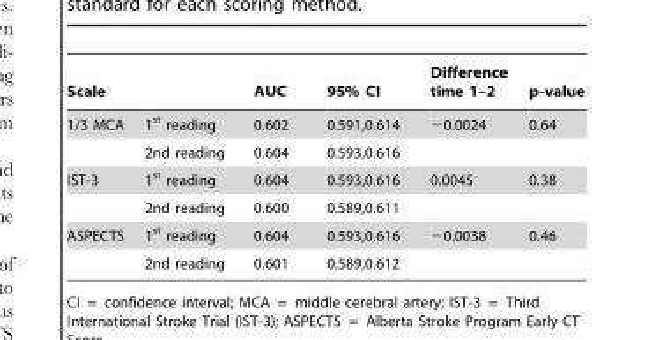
<table><thead><tr><td>Scale</td><td></td><td>AUC</td><td>95% CI</td><td>Difference time 1–2</td><td>p-value</td></tr></thead><tbody><tr><td rowspan="2">1/3 MCA</td><td>1<sup>st</sup> reading</td><td>0.602</td><td>0.591,0.614</td><td>−0.0024</td><td>0.64</td></tr><tr><td>2nd reading</td><td>0.604</td><td>0.593,0.616</td><td></td><td></td></tr><tr><td rowspan="2">IST-3</td><td>1<sup>st</sup> reading</td><td>0.604</td><td>0.593,0.616</td><td>0.0045</td><td>0.38</td></tr><tr><td>2nd reading</td><td>0.600</td><td>0.589,0.611</td><td></td><td></td></tr><tr><td rowspan="2">ASPECTS</td><td>1<sup>st</sup> reading</td><td>0.604</td><td>0.593,0.616</td><td>−0.0038</td><td>0.46</td></tr><tr><td>2nd reading</td><td>0.601</td><td>0.589,0.612</td><td></td><td></td></tr></tbody></table>